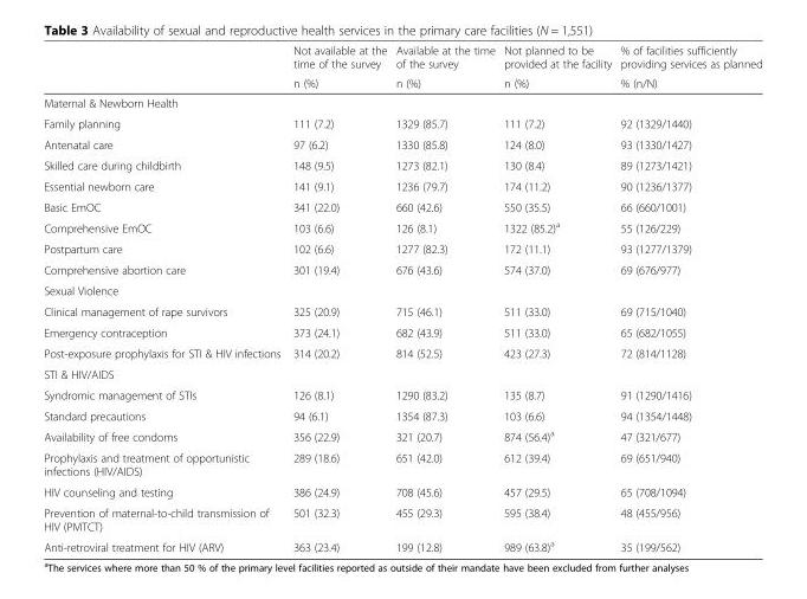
<table><thead><tr><td rowspan="2"></td><td rowspan="2">Not available at the time of the survey n (%)</td><td rowspan="2">Available at the time of the survey n (%)</td><td rowspan="2">Not planned to be provided at the facility n (%)</td><td rowspan="2">% of facilities sufficiently providing services as planned % (n/N)</td></tr><tr></tr></thead><tbody><tr><td colspan="5">Maternal &amp; Newborn Health</td></tr><tr><td>Family planning</td><td>111 (7.2)</td><td>1329 (85.7)</td><td>111 (7.2)</td><td>92 (1329/1440)</td></tr><tr><td>Antenatal care</td><td>97 (6.2)</td><td>1330 (85.8)</td><td>124 (8.0)</td><td>93 (1330/1427)</td></tr><tr><td>Skilled care during childbirth</td><td>148 (9.5)</td><td>1273 (82.1)</td><td>130 (8.4)</td><td>89 (1273/1421)</td></tr><tr><td>Essential newborn care</td><td>141 (9.1)</td><td>1236 (79.7)</td><td>174 (11.2)</td><td>90 (1236/1377)</td></tr><tr><td>Basic EmOC</td><td>341 (22.0)</td><td>660 (42.6)</td><td>550 (35.5)</td><td>66 (660/1001)</td></tr><tr><td>Comprehensive EmOC</td><td>103 (6.6)</td><td>126 (8.1)</td><td>1322 (85.2)<sup>a</sup></td><td>55 (126/229)</td></tr><tr><td>Postpartum care</td><td>102 (6.6)</td><td>1277 (82.3)</td><td>172 (11.1)</td><td>93 (1277/1379)</td></tr><tr><td>Comprehensive abortion care</td><td>301 (19.4)</td><td>676 (43.6)</td><td>574 (37.0)</td><td>69 (676/977)</td></tr><tr><td colspan="5">Sexual Violence</td></tr><tr><td>Clinical management of rape survivors</td><td>325 (20.9)</td><td>715 (46.1)</td><td>511 (33.0)</td><td>69 (715/1040)</td></tr><tr><td>Emergency contraception</td><td>373 (24.1)</td><td>682 (43.9)</td><td>511 (33.0)</td><td>65 (682/1055)</td></tr><tr><td>Post-exposure prophylaxis for STI &amp; HIV infections</td><td>314 (20.2)</td><td>814 (52.5)</td><td>423 (27.3)</td><td>72 (814/1128)</td></tr><tr><td colspan="5">STI &amp; HIV/AIDS</td></tr><tr><td>Syndromic management of STIs</td><td>126 (8.1)</td><td>1290 (83.2)</td><td>135 (8.7)</td><td>91 (1290/1416)</td></tr><tr><td>Standard precautions</td><td>94 (6.1)</td><td>1354 (87.3)</td><td>103 (6.6)</td><td>94 (1354/1448)</td></tr><tr><td>Availability of free condoms</td><td>356 (22.9)</td><td>321 (20.7)</td><td>874 (56.4)<sup>a</sup></td><td>47 (321/677)</td></tr><tr><td>Prophylaxis and treatment of opportunistic infections (HIV/AIDS)</td><td>289 (18.6)</td><td>651 (42.0)</td><td>612 (39.4)</td><td>69 (651/940)</td></tr><tr><td>HIV counseling and testing</td><td>386 (24.9)</td><td>708 (45.6)</td><td>457 (29.5)</td><td>65 (708/1094)</td></tr><tr><td>Prevention of maternal-to-child transmission of HIV (PMTCT)</td><td>501 (32.3)</td><td>455 (29.3)</td><td>595 (38.4)</td><td>48 (455/956)</td></tr><tr><td>Anti-retroviral treatment for HIV (ARV)</td><td>363 (23.4)</td><td>199 (12.8)</td><td>989 (63.8)<sup>a</sup></td><td>35 (199/562)</td></tr></tbody></table>